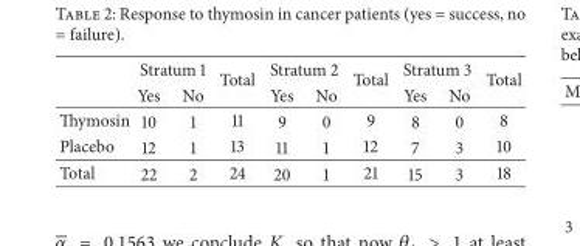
<table><thead><tr><td rowspan="2"></td><td colspan="2">Stratum 1</td><td rowspan="2">Total</td><td colspan="2">Stratum 2</td><td rowspan="2">Total</td><td colspan="2">Stratum 3</td><td rowspan="2">Total</td></tr><tr><td>Yes</td><td>No</td><td>Yes</td><td>No</td><td>Yes</td><td>No</td></tr></thead><tbody><tr><td>Thymosin</td><td>10</td><td>1</td><td>11</td><td>9</td><td>0</td><td>9</td><td>8</td><td>0</td><td>8</td></tr><tr><td>Placebo</td><td>12</td><td>1</td><td>13</td><td>11</td><td>1</td><td>12</td><td>7</td><td>3</td><td>10</td></tr><tr><td>Total</td><td>22</td><td>2</td><td>24</td><td>20</td><td>1</td><td>21</td><td>15</td><td>3</td><td>18</td></tr></tbody></table>